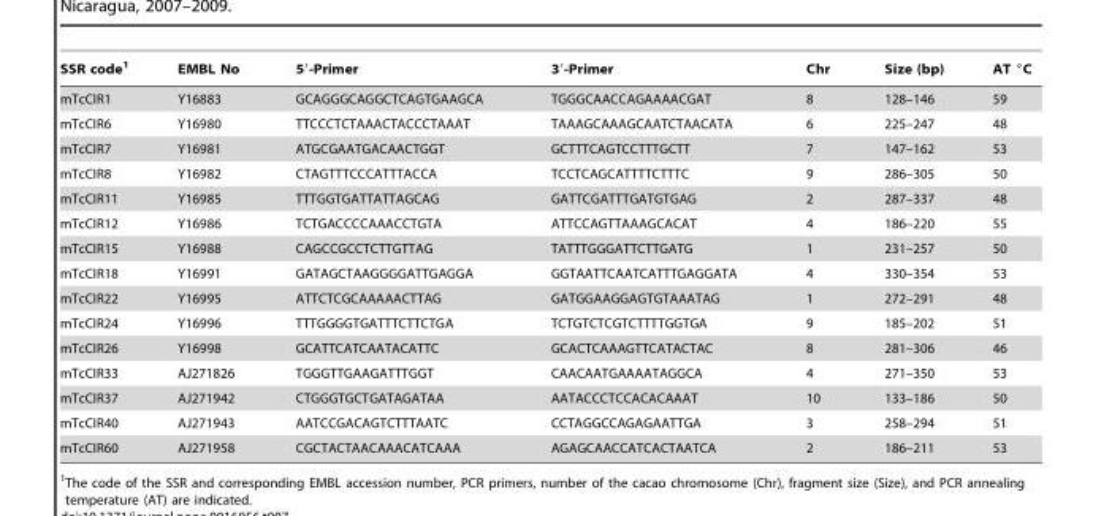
<table><thead><tr><td>SSR code<sup>1</sup></td><td>EMBL No</td><td>5′-Primer</td><td>3′-Primer</td><td>Chr</td><td>Size (bp)</td><td>AT °C</td></tr></thead><tbody><tr><td>mTcCIR1</td><td>Y16883</td><td>GCAGGGCAGGCTCAGTGAAGCA</td><td>TGGGCAACCAGAAAACGAT</td><td>8</td><td>128–146</td><td>59</td></tr><tr><td>mTcCIR6</td><td>Y16980</td><td>TTCCCTCTAAACTACCCTAAAT</td><td>TAAAGCAAAGCAATCTAACATA</td><td>6</td><td>225–247</td><td>48</td></tr><tr><td>mTcCIR7</td><td>Y16981</td><td>ATGCGAATGACAACTGGT</td><td>GCTTTCAGTCCTTTGCTT</td><td>7</td><td>147–162</td><td>53</td></tr><tr><td>mTcCIR8</td><td>Y16982</td><td>CTAGTTTCCCATTTACCA</td><td>TCCTCAGCATTTTCTTTC</td><td>9</td><td>286–305</td><td>50</td></tr><tr><td>mTcCIR11</td><td>Y16985</td><td>TTTGGTGATTATTAGCAG</td><td>GATTCGATTTGATGTGAG</td><td>2</td><td>287–337</td><td>48</td></tr><tr><td>mTcCIR12</td><td>Y16986</td><td>TCTGACCCCAAACCTGTA</td><td>ATTCCAGTTAAAGCACAT</td><td>4</td><td>186–220</td><td>55</td></tr><tr><td>mTcCIR15</td><td>Y16988</td><td>CAGCCGCCTCTTGTTAG</td><td>TATTTGGGATTCTTGATG</td><td>1</td><td>231–257</td><td>50</td></tr><tr><td>mTcCIR18</td><td>Y16991</td><td>GATAGCTAAGGGGATTGAGGA</td><td>GGTAATTCAATCATTTGAGGATA</td><td>4</td><td>330–354</td><td>53</td></tr><tr><td>mTcCIR22</td><td>Y16995</td><td>ATTCTCGCAAAAACTTAG</td><td>GATGGAAGGAGTGTAAATAG</td><td>1</td><td>272–291</td><td>48</td></tr><tr><td>mTcCIR24</td><td>Y16996</td><td>TTTGGGGTGATTTCTTCTGA</td><td>TCTGTCTCGTCTTTTGGTGA</td><td>9</td><td>185–202</td><td>51</td></tr><tr><td>mTcCIR26</td><td>Y16998</td><td>GCATTCATCAATACATTC</td><td>GCACTCAAAGTTCATACTAC</td><td>8</td><td>281–306</td><td>46</td></tr><tr><td>mTcCIR33</td><td>AJ271826</td><td>TGGGTTGAAGATTTGGT</td><td>CAACAATGAAAATAGGCA</td><td>4</td><td>271–350</td><td>53</td></tr><tr><td>mTcCIR37</td><td>AJ271942</td><td>CTGGGTGCTGATAGATAA</td><td>AATACCCTCCACACAAAT</td><td>10</td><td>133–186</td><td>50</td></tr><tr><td>mTcCIR40</td><td>AJ271943</td><td>AATCCGACAGTCTTTAATC</td><td>CCTAGGCCAGAGAATTGA</td><td>3</td><td>258–294</td><td>51</td></tr><tr><td>mTcCIR60</td><td>AJ271958</td><td>CGCTACTAACAAACATCAAA</td><td>AGAGCAACCATCACTAATCA</td><td>2</td><td>186–211</td><td>53</td></tr></tbody></table>